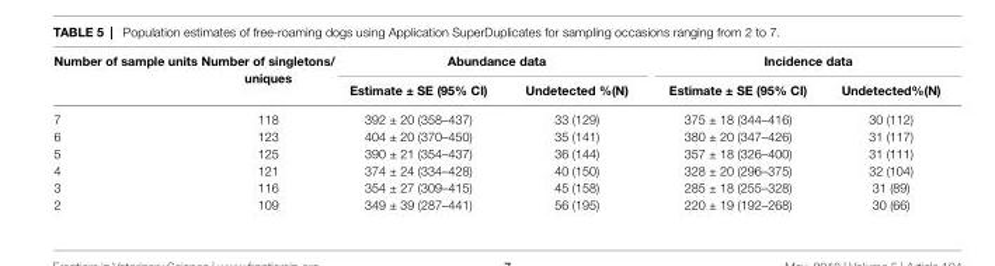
<table><thead><tr><td rowspan="2">number of sample units</td><td rowspan="2">number of singletons/ uniques</td><td colspan="2">abundance data</td><td colspan="2">incidence data</td></tr><tr><td>estimate ± se (95% ci)</td><td>undetected %(n)</td><td>estimate ± se (95% ci)</td><td>undetected%(n)</td></tr></thead><tbody><tr><td>7</td><td>118</td><td>392 ± 20 (358–437)</td><td>33 (129)</td><td>375 ± 18 (344–416)</td><td>30 (112)</td></tr><tr><td>6</td><td>123</td><td>404 ± 20 (370–450)</td><td>35 (141)</td><td>380 ± 20 (347–426)</td><td>31 (117)</td></tr><tr><td>5</td><td>125</td><td>390 ± 21 (354–437)</td><td>36 (144)</td><td>357 ± 18 (326–400)</td><td>31 (111)</td></tr><tr><td>4</td><td>121</td><td>374 ± 24 (334–428)</td><td>40 (150)</td><td>328 ± 20 (296–375)</td><td>32 (104)</td></tr><tr><td>3</td><td>116</td><td>354 ± 27 (309–415)</td><td>45 (158)</td><td>285 ± 18 (255–328)</td><td>31 (89)</td></tr><tr><td>2</td><td>109</td><td>349 ± 39 (287–441)</td><td>56 (195)</td><td>220 ± 19 (192–268)</td><td>30 (66)</td></tr></tbody></table>